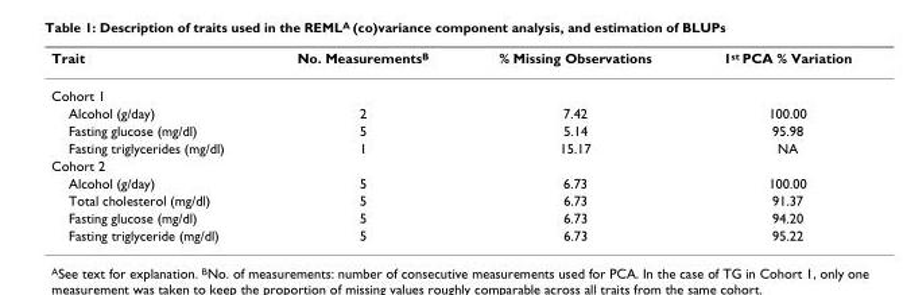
<table><thead><tr><td>Trait</td><td>No. MeasurementsB</td><td>% Missing Observations</td><td>1st PCA % Variation</td></tr></thead><tbody><tr><td colspan="4">Cohort 1</td></tr><tr><td>Alcohol (g/day)</td><td>2</td><td>7.42</td><td>100.00</td></tr><tr><td>Fasting glucose (mg/dl)</td><td>5</td><td>5.14</td><td>95.98</td></tr><tr><td>Fasting triglycerides (mg/dl)</td><td>1</td><td>15.17</td><td>NA</td></tr><tr><td colspan="4">Cohort 2</td></tr><tr><td>Alcohol (g/day)</td><td>5</td><td>6.73</td><td>100.00</td></tr><tr><td>Total cholesterol (mg/dl)</td><td>5</td><td>6.73</td><td>91.37</td></tr><tr><td>Fasting glucose (mg/dl)</td><td>5</td><td>6.73</td><td>94.20</td></tr><tr><td>Fasting triglyceride (mg/dl)</td><td>5</td><td>6.73</td><td>95.22</td></tr></tbody></table>